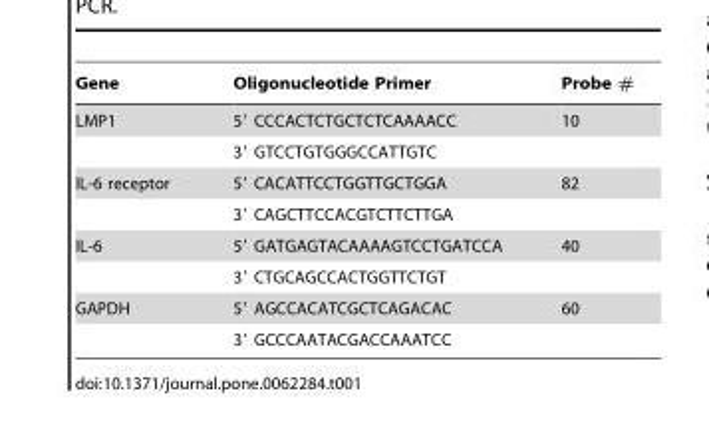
<table><thead><tr><td>Gene</td><td>Oligonucleotide Primer</td><td>Probe #</td></tr></thead><tbody><tr><td rowspan="2">LMP1</td><td>5′ CCCACTCTGCTCTCAAAACC</td><td>10</td></tr><tr><td>3′ GTCCTGTGGGCCATTGTC</td><td></td></tr><tr><td rowspan="2">IL-6 receptor</td><td>5′ CACATTCCTGGTTGCTGGA</td><td>82</td></tr><tr><td>3′ CAGCTTCCACGTCTTCTTGA</td><td></td></tr><tr><td rowspan="2">IL-6</td><td>5′ GATGAGTACAAAAGTCCTGATCCA</td><td>40</td></tr><tr><td>3′ CTGCAGCCACTGGTTCTGT</td><td></td></tr><tr><td rowspan="2">GAPDH</td><td>5′ AGCCACATCGCTCAGACAC</td><td>60</td></tr><tr><td>3′ GCCCAATACGACCAAATCC</td><td></td></tr></tbody></table>